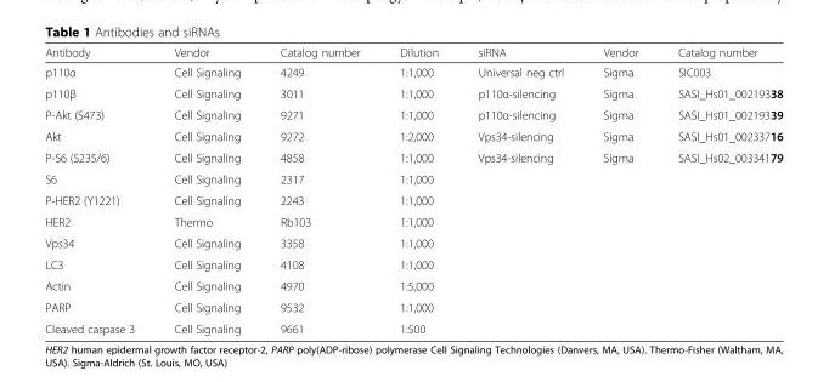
<table><thead><tr><td>Antibody</td><td>Vendor</td><td>Catalog number</td><td>Dilution</td><td>siRNA</td><td>Vendor</td><td>Catalog number</td></tr></thead><tbody><tr><td>p110α</td><td>Cell Signaling</td><td>4249</td><td>1:1,000</td><td>Universal neg ctrl</td><td>Sigma</td><td>SIC003</td></tr><tr><td>p110β</td><td>Cell Signaling</td><td>3011</td><td>1:1,000</td><td>p110α-silencing</td><td>Sigma</td><td>SASI_Hs01_00219338</td></tr><tr><td>P-Akt (S473)</td><td>Cell Signaling</td><td>9271</td><td>1:1,000</td><td>p110α-silencing</td><td>Sigma</td><td>SASI_Hs01_00219339</td></tr><tr><td>Akt</td><td>Cell Signaling</td><td>9272</td><td>1:2,000</td><td>Vps34-silencing</td><td>Sigma</td><td>SASI_Hs01_00233716</td></tr><tr><td>P-S6 (S235/6)</td><td>Cell Signaling</td><td>4858</td><td>1:1,000</td><td>Vps34-silencing</td><td>Sigma</td><td>SASI_Hs02_00334179</td></tr><tr><td>S6</td><td>Cell Signaling</td><td>2317</td><td>1:1,000</td><td></td><td></td><td></td></tr><tr><td>P-HER2 (Y1221)</td><td>Cell Signaling</td><td>2243</td><td>1:1,000</td><td></td><td></td><td></td></tr><tr><td>HER2</td><td>Thermo</td><td>Rb103</td><td>1:1,000</td><td></td><td></td><td></td></tr><tr><td>Vps34</td><td>Cell Signaling</td><td>3358</td><td>1:1,000</td><td></td><td></td><td></td></tr><tr><td>LC3</td><td>Cell Signaling</td><td>4108</td><td>1:1,000</td><td></td><td></td><td></td></tr><tr><td>Actin</td><td>Cell Signaling</td><td>4970</td><td>1:5,000</td><td></td><td></td><td></td></tr><tr><td>PARP</td><td>Cell Signaling</td><td>9532</td><td>1:1,000</td><td></td><td></td><td></td></tr><tr><td>Cleaved caspase 3</td><td>Cell Signaling</td><td>9661</td><td>1:500</td><td></td><td></td><td></td></tr></tbody></table>